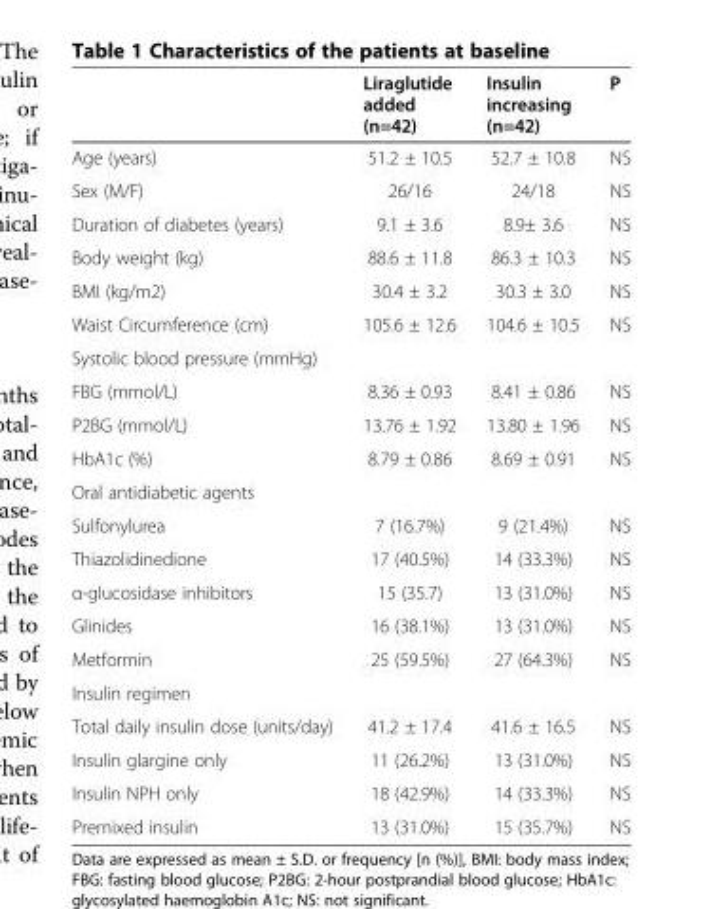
<table><thead><tr><td></td><td>Liraglutide added (n=42)</td><td>Insulin increasing (n=42)</td><td>P</td></tr></thead><tbody><tr><td>Age (years)</td><td>51.2 ± 10.5</td><td>52.7 ± 10.8</td><td>NS</td></tr><tr><td>Sex (M/F)</td><td>26/16</td><td>24/18</td><td>NS</td></tr><tr><td>Duration of diabetes (years)</td><td>9.1 ± 3.6</td><td>8.9± 3.6</td><td>NS</td></tr><tr><td>Body weight (kg)</td><td>88.6 ± 11.8</td><td>86.3 ± 10.3</td><td>NS</td></tr><tr><td>BMI (kg/m2)</td><td>30.4 ± 3.2</td><td>30.3 ± 3.0</td><td>NS</td></tr><tr><td>Waist Circumference (cm)</td><td>105.6 ± 12.6</td><td>104.6 ± 10.5</td><td>NS</td></tr><tr><td colspan="4">Systolic blood pressure (mmHg)</td></tr><tr><td>FBG (mmol/L)</td><td>8.36 ± 0.93</td><td>8.41 ± 0.86</td><td>NS</td></tr><tr><td>P2BG (mmol/L)</td><td>13.76 ± 1.92</td><td>13.80 ± 1.96</td><td>NS</td></tr><tr><td>HbA1c (%)</td><td>8.79 ± 0.86</td><td>8.69 ± 0.91</td><td>NS</td></tr><tr><td colspan="4">Oral antidiabetic agents</td></tr><tr><td>Sulfonylurea</td><td>7 (16.7%)</td><td>9 (21.4%)</td><td>NS</td></tr><tr><td>Thiazolidinedione</td><td>17 (40.5%)</td><td>14 (33.3%)</td><td>NS</td></tr><tr><td>α-glucosidase inhibitors</td><td>15 (35.7)</td><td>13 (31.0%)</td><td>NS</td></tr><tr><td>Glinides</td><td>16 (38.1%)</td><td>13 (31.0%)</td><td>NS</td></tr><tr><td>Metformin</td><td>25 (59.5%)</td><td>27 (64.3%)</td><td>NS</td></tr><tr><td colspan="4">Insulin regimen</td></tr><tr><td>Total daily insulin dose (units/day)</td><td>41.2 ± 17.4</td><td>41.6 ± 16.5</td><td>NS</td></tr><tr><td>Insulin glargine only</td><td>11 (26.2%)</td><td>13 (31.0%)</td><td>NS</td></tr><tr><td>Insulin NPH only</td><td>18 (42.9%)</td><td>14 (33.3%)</td><td>NS</td></tr><tr><td>Premixed insulin</td><td>13 (31.0%)</td><td>15 (35.7%)</td><td>NS</td></tr></tbody></table>